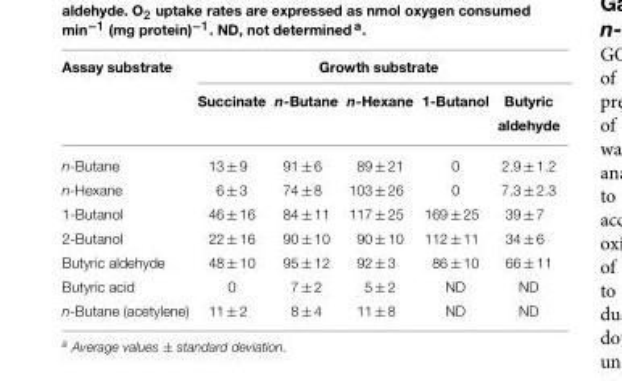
<table><thead><tr><td rowspan="2">Assay substrate</td><td colspan="5">Growth substrate</td></tr><tr><td>Succinate</td><td>n-Butane</td><td>n-Hexane</td><td>1-Butanol</td><td>Butyric aldehyde</td></tr></thead><tbody><tr><td>n-Butane</td><td>13 ± 9</td><td>91 ± 6</td><td>89 ± 21</td><td>0</td><td>2.9 ± 1.2</td></tr><tr><td>n-Hexane</td><td>6 ± 3</td><td>74 ± 8</td><td>103 ± 26</td><td>0</td><td>7.3 ± 2.3</td></tr><tr><td>1-Butanol</td><td>46 ± 16</td><td>84 ± 11</td><td>117 ± 25</td><td>169 ± 25</td><td>39 ± 7</td></tr><tr><td>2-Butanol</td><td>22 ± 16</td><td>90 ± 10</td><td>90 ± 10</td><td>112 ± 11</td><td>34 ± 6</td></tr><tr><td>Butyric aldehyde</td><td>48 ± 10</td><td>95 ± 12</td><td>92 ± 3</td><td>86 ± 10</td><td>66 ± 11</td></tr><tr><td>Butyric acid</td><td>0</td><td>7 ± 2</td><td>5 ± 2</td><td>ND</td><td>ND</td></tr><tr><td>n-Butane (acetylene)</td><td>11 ± 2</td><td>8 ± 4</td><td>11 ± 8</td><td>ND</td><td>ND</td></tr></tbody></table>